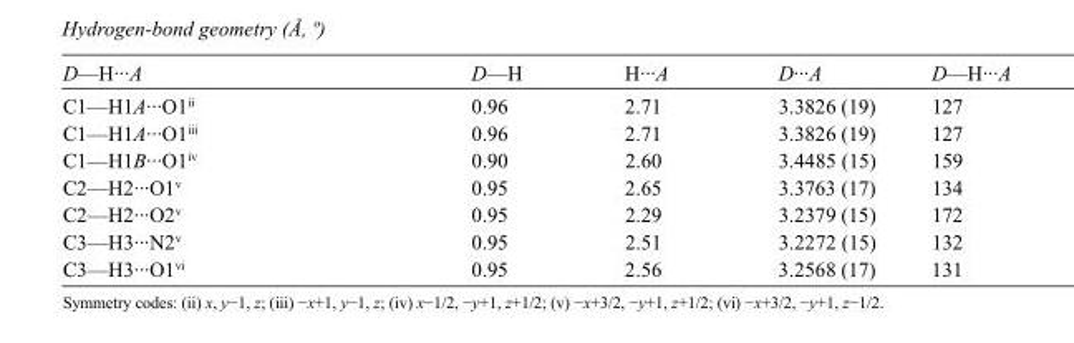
<table><tbody><tr><td>D—H···A</td><td>D—H</td><td>H···A</td><td>D···A</td><td>D—H···A</td></tr><tr><td>C1—H1A···O1<sup>ii</sup></td><td>0.96</td><td>2.71</td><td>3.3826 (19)</td><td>127</td></tr><tr><td>C1—H1A···O1<sup>iii</sup></td><td>0.96</td><td>2.71</td><td>3.3826 (19)</td><td>127</td></tr><tr><td>C1—H1B···O1<sup>iv</sup></td><td>0.90</td><td>2.60</td><td>3.4485 (15)</td><td>159</td></tr><tr><td>C2—H2···O1<sup>v</sup></td><td>0.95</td><td>2.65</td><td>3.3763 (17)</td><td>134</td></tr><tr><td>C2—H2···O2<sup>v</sup></td><td>0.95</td><td>2.29</td><td>3.2379 (15)</td><td>172</td></tr><tr><td>C3—H3···N2<sup>v</sup></td><td>0.95</td><td>2.51</td><td>3.2272 (15)</td><td>132</td></tr><tr><td>C3—H3···O1<sup>vi</sup></td><td>0.95</td><td>2.56</td><td>3.2568 (17)</td><td>131</td></tr></tbody></table>